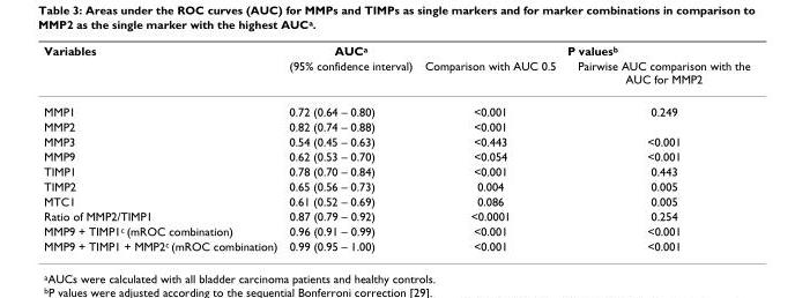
<table><thead><tr><td rowspan="2">Variables</td><td rowspan="2">AUCa (95% confidence interval)</td><td colspan="2">P valuesb</td></tr><tr><td>Comparison with AUC 0.5</td><td>Pairwise AUC comparison with the AUC for MMP2</td></tr></thead><tbody><tr><td>MMP1</td><td>0.72 (0.64 – 0.80)</td><td>&lt;0.001</td><td>0.249</td></tr><tr><td>MMP2</td><td>0.82 (0.74 – 0.88)</td><td>&lt;0.001</td><td></td></tr><tr><td>MMP3</td><td>0.54 (0.45 – 0.63)</td><td>&lt;0.443</td><td>&lt;0.001</td></tr><tr><td>MMP9</td><td>0.62 (0.53 – 0.70)</td><td>&lt;0.054</td><td>&lt;0.001</td></tr><tr><td>TIMP1</td><td>0.78 (0.70 – 0.84)</td><td>&lt;0.001</td><td>0.443</td></tr><tr><td>TIMP2</td><td>0.65 (0.56 – 0.73)</td><td>0.004</td><td>0.005</td></tr><tr><td>MTC1</td><td>0.61 (0.52 – 0.69)</td><td>0.086</td><td>0.005</td></tr><tr><td>Ratio of MMP2/TIMP1</td><td>0.87 (0.79 – 0.92)</td><td>&lt;0.0001</td><td>0.254</td></tr><tr><td>MMP9 + TIMP1c (mROC combination)</td><td>0.96 (0.91 – 0.99)</td><td>&lt;0.001</td><td>&lt;0.001</td></tr><tr><td>MMP9 + TIMP1 + MMP2c (mROC combination)</td><td>0.99 (0.95 – 1.00)</td><td>&lt;0.001</td><td>&lt;0.001</td></tr></tbody></table>